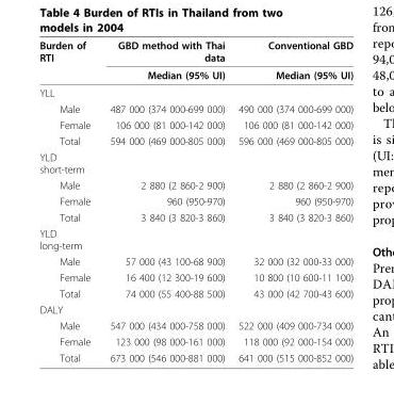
<table><thead><tr><td rowspan="2">Burden of RTI</td><td rowspan="2">GBD method with Thai data Median (95% UI)</td><td rowspan="2">Conventional GBD Median (95% UI)</td></tr><tr></tr></thead><tbody><tr><td colspan="3">YLL</td></tr><tr><td>Male</td><td>487 000 (374 000-699 000)</td><td>490 000 (374 000-699 000)</td></tr><tr><td>Female</td><td>106 000 (81 000-142 000)</td><td>106 000 (81 000-142 000)</td></tr><tr><td>Total</td><td>594 000 (469 000-805 000)</td><td>596 000 (469 000-805 000)</td></tr><tr><td colspan="3">YLD short-term</td></tr><tr><td>Male</td><td>2 880 (2 860-2 900)</td><td>2 880 (2 860-2 900)</td></tr><tr><td>Female</td><td>960 (950-970)</td><td>960 (950-970)</td></tr><tr><td>Total</td><td>3 840 (3 820-3 860)</td><td>3 840 (3 820-3 860)</td></tr><tr><td colspan="3">YLD long-term</td></tr><tr><td>Male</td><td>57 000 (43 100-68 900)</td><td>32 000 (32 000-33 000)</td></tr><tr><td>Female</td><td>16 400 (12 300-19 600)</td><td>10 800 (10 600-11 100)</td></tr><tr><td>Total</td><td>74 000 (55 400-88 500)</td><td>43 000 (42 700-43 600)</td></tr><tr><td colspan="3">DALY</td></tr><tr><td>Male</td><td>547 000 (434 000-758 000)</td><td>522 000 (409 000-734 000)</td></tr><tr><td>Female</td><td>123 000 (98 000-161 000)</td><td>118 000 (92 000-154 000)</td></tr><tr><td>Total</td><td>673 000 (546 000-881 000)</td><td>641 000 (515 000-852 000)</td></tr></tbody></table>